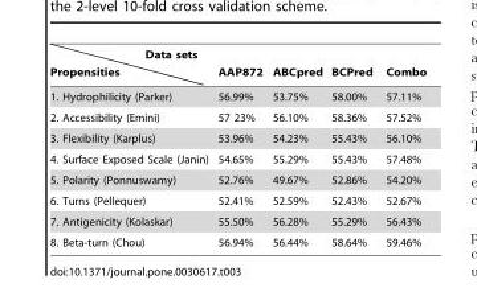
<table><thead><tr><td>Data sets Propensities</td><td>AAP872</td><td>ABCpred</td><td>BCPred</td><td>Combo</td></tr></thead><tbody><tr><td>1. Hydrophilicity (Parker)</td><td>56.99%</td><td>53.75%</td><td>58.00%</td><td>57.11%</td></tr><tr><td>2. Accessibility (Emini)</td><td>57 23%</td><td>56.10%</td><td>58.36%</td><td>57.52%</td></tr><tr><td>3. Flexibility (Karplus)</td><td>53.96%</td><td>54.23%</td><td>55.43%</td><td>56.10%</td></tr><tr><td>4. Surface Exposed Scale (Janin)</td><td>54.65%</td><td>55.29%</td><td>55.43%</td><td>57.48%</td></tr><tr><td>5. Polarity (Ponnuswamy)</td><td>52.76%</td><td>49.67%</td><td>52.86%</td><td>54.20%</td></tr><tr><td>6. Turns (Pellequer)</td><td>52.41%</td><td>52.59%</td><td>52.43%</td><td>52.67%</td></tr><tr><td>7. Antigenicity (Kolaskar)</td><td>55.50%</td><td>56.28%</td><td>55.29%</td><td>56.43%</td></tr><tr><td>8. Beta-turn (Chou)</td><td>56.94%</td><td>56.44%</td><td>58.64%</td><td>59.46%</td></tr></tbody></table>